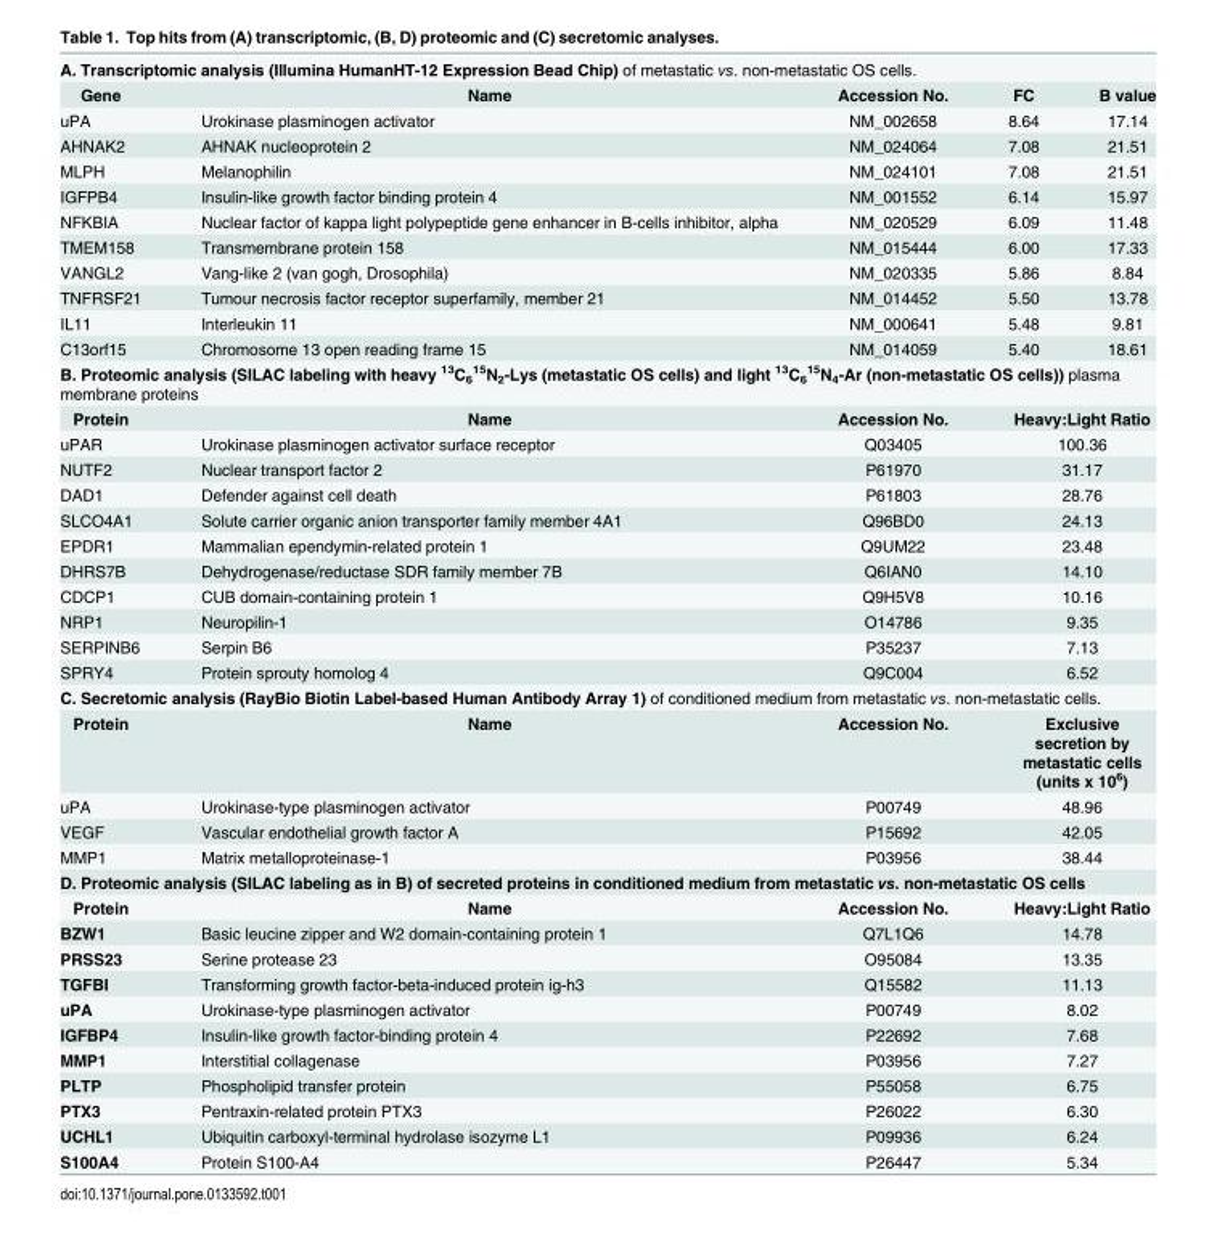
<table><tbody><tr><td colspan="5">A. Transcriptomic analysis (Illumina HumanHT-12 Expression Bead Chip) of metastatic vs. non-metastatic OS cells.</td></tr><tr><td>Gene</td><td>Name</td><td>Accession No.</td><td>FC</td><td>B value</td></tr><tr><td>uPA</td><td>Urokinase plasminogen activator</td><td>NM_002658</td><td>8.64</td><td>17.14</td></tr><tr><td>AHNAK2</td><td>AHNAK nucleoprotein 2</td><td>NM_024064</td><td>7.08</td><td>21.51</td></tr><tr><td>MLPH</td><td>Melanophilin</td><td>NM_024101</td><td>7.08</td><td>21.51</td></tr><tr><td>IGFPB4</td><td>Insulin-like growth factor binding protein 4</td><td>NM_001552</td><td>6.14</td><td>15.97</td></tr><tr><td>NFKBIA</td><td>Nuclear factor of kappa light polypeptide gene enhancer in B-cells inhibitor, alpha</td><td>NM_020529</td><td>6.09</td><td>11.48</td></tr><tr><td>TMEM158</td><td>Transmembrane protein 158</td><td>NM_015444</td><td>6.00</td><td>17.33</td></tr><tr><td>VANGL2</td><td>Vang-like 2 (van gogh, Drosophila)</td><td>NM_020335</td><td>5.86</td><td>8.84</td></tr><tr><td>TNFRSF21</td><td>Tumour necrosis factor receptor superfamily, member 21</td><td>NM_014452</td><td>5.50</td><td>13.78</td></tr><tr><td>IL11</td><td>Interleukin 11</td><td>NM_000641</td><td>5.48</td><td>9.81</td></tr><tr><td>C13orf15</td><td>Chromosome 13 open reading frame 15</td><td>NM_014059</td><td>5.40</td><td>18.61</td></tr><tr><td colspan="5">B. Proteomic analysis (SILAC labeling with heavy 13C6 15N2-Lys (metastatic OS cells) and light 13C6 15N4-Ar (non-metastatic OS cells)) plasma membrane proteins</td></tr><tr><td>Protein</td><td>Name</td><td>Accession No.</td><td colspan="2">Heavy:Light Ratio</td></tr><tr><td>uPAR</td><td>Urokinase plasminogen activator surface receptor</td><td>Q03405</td><td colspan="2">100.36</td></tr><tr><td>NUTF2</td><td>Nuclear transport factor 2</td><td>P61970</td><td colspan="2">31.17</td></tr><tr><td>DAD1</td><td>Defender against cell death</td><td>P61803</td><td colspan="2">28.76</td></tr><tr><td>SLCO4A1</td><td>Solute carrier organic anion transporter family member 4A1</td><td>Q96BD0</td><td colspan="2">24.13</td></tr><tr><td>EPDR1</td><td>Mammalian ependymin-related protein 1</td><td>Q9UM22</td><td colspan="2">23.48</td></tr><tr><td>DHRS7B</td><td>Dehydrogenase/reductase SDR family member 7B</td><td>Q6IAN0</td><td colspan="2">14.10</td></tr><tr><td>CDCP1</td><td>CUB domain-containing protein 1</td><td>Q9H5V8</td><td colspan="2">10.16</td></tr><tr><td>NRP1</td><td>Neuropilin-1</td><td>O14786</td><td colspan="2">9.35</td></tr><tr><td>SERPINB6</td><td>Serpin B6</td><td>P35237</td><td colspan="2">7.13</td></tr><tr><td>SPRY4</td><td>Protein sprouty homolog 4</td><td>Q9C004</td><td colspan="2">6.52</td></tr><tr><td colspan="5">C. Secretomic analysis (RayBio Biotin Label-based Human Antibody Array 1) of conditioned medium from metastatic vs. non-metastatic cells.</td></tr><tr><td>Protein</td><td>Name</td><td>Accession No.</td><td colspan="2">Exclusive secretion by metastatic cells (units x 10<sup>6</sup>)</td></tr><tr><td>uPA</td><td>Urokinase-type plasminogen activator</td><td>P00749</td><td colspan="2">48.96</td></tr><tr><td>VEGF</td><td>Vascular endothelial growth factor A</td><td>P15692</td><td colspan="2">42.05</td></tr><tr><td>MMP1</td><td>Matrix metalloproteinase-1</td><td>P03956</td><td colspan="2">38.44</td></tr><tr><td colspan="5">D. Proteomic analysis (SILAC labeling as in B) of secreted proteins in conditioned medium from metastatic vs. non-metastatic OS cells</td></tr><tr><td>Protein</td><td>Name</td><td>Accession No.</td><td colspan="2">Heavy:Light Ratio</td></tr><tr><td>BZW1</td><td>Basic leucine zipper and W2 domain-containing protein 1</td><td>Q7L1Q6</td><td colspan="2">14.78</td></tr><tr><td>PRSS23</td><td>Serine protease 23</td><td>O95084</td><td colspan="2">13.35</td></tr><tr><td>TGFBI</td><td>Transforming growth factor-beta-induced protein ig-h3</td><td>Q15582</td><td colspan="2">11.13</td></tr><tr><td>uPA</td><td>Urokinase-type plasminogen activator</td><td>P00749</td><td colspan="2">8.02</td></tr><tr><td>IGFBP4</td><td>Insulin-like growth factor-binding protein 4</td><td>P22692</td><td colspan="2">7.68</td></tr><tr><td>MMP1</td><td>Interstitial collagenase</td><td>P03956</td><td colspan="2">7.27</td></tr><tr><td>PLTP</td><td>Phospholipid transfer protein</td><td>P55058</td><td colspan="2">6.75</td></tr><tr><td>PTX3</td><td>Pentraxin-related protein PTX3</td><td>P26022</td><td colspan="2">6.30</td></tr><tr><td>UCHL1</td><td>Ubiquitin carboxyl-terminal hydrolase isozyme L1</td><td>P09936</td><td colspan="2">6.24</td></tr><tr><td>S100A4</td><td>Protein S100-A4</td><td>P26447</td><td colspan="2">5.34</td></tr></tbody></table>